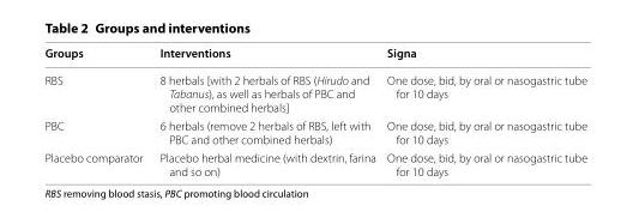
<table><thead><tr><td>Groups</td><td>Interventions</td><td>Signa</td></tr></thead><tbody><tr><td>RBS</td><td>8 herbals [with 2 herbals of RBS (Hirudo and Tabanus), as well as herbals of PBC and other combined herbals]</td><td>One dose, bid, by oral or nasogastric tube for 10 days</td></tr><tr><td>PBC</td><td>6 herbals (remove 2 herbals of RBS, left with PBC and other combined herbals)</td><td>One dose, bid, by oral or nasogastric tube for 10 days</td></tr><tr><td>Placebo comparator</td><td>Placebo herbal medicine (with dextrin, farina and so on)</td><td>One dose, bid, by oral or nasogastric tube for 10 days</td></tr></tbody></table>